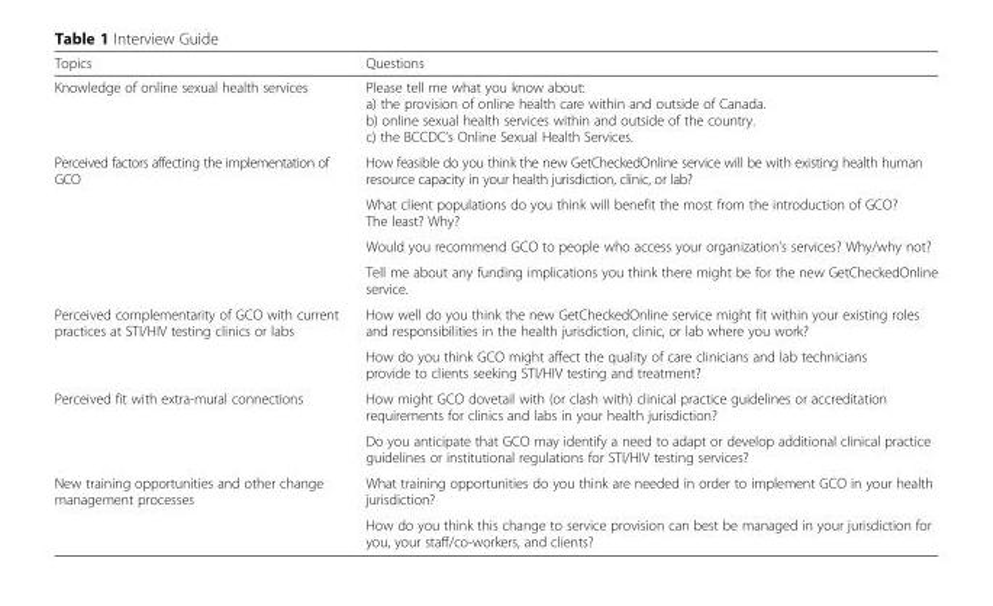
<table><thead><tr><td>Topics</td><td>Questions</td></tr></thead><tbody><tr><td>Knowledge of online sexual health services</td><td>Please tell me what you know about: a) the provision of online health care within and outside of Canada. b) online sexual health services within and outside of the country. c) the BCCDC’s Online Sexual Health Services.</td></tr><tr><td rowspan="4">Perceived factors affecting the implementation of GCO</td><td>How feasible do you think the new GetCheckedOnline service will be with existing health human resource capacity in your health jurisdiction, clinic, or lab?</td></tr><tr><td>What client populations do you think will benefit the most from the introduction of GCO? The least? Why?</td></tr><tr><td>Would you recommend GCO to people who access your organization’s services? Why/why not?</td></tr><tr><td>Tell me about any funding implications you think there might be for the new GetCheckedOnline service.</td></tr><tr><td rowspan="2">Perceived complementarity of GCO with current practices at STI/HIV testing clinics or labs</td><td>How well do you think the new GetCheckedOnline service might fit within your existing roles and responsibilities in the health jurisdiction, clinic, or lab where you work?</td></tr><tr><td>How do you think GCO might affect the quality of care clinicians and lab technicians provide to clients seeking STI/HIV testing and treatment?</td></tr><tr><td rowspan="2">Perceived fit with extra-mural connections</td><td>How might GCO dovetail with (or clash with) clinical practice guidelines or accreditation requirements for clinics and labs in your health jurisdiction?</td></tr><tr><td>Do you anticipate that GCO may identify a need to adapt or develop additional clinical practice guidelines or institutional regulations for STI/HIV testing services?</td></tr><tr><td rowspan="2">New training opportunities and other change management processes</td><td>What training opportunities do you think are needed in order to implement GCO in your health jurisdiction?</td></tr><tr><td>How do you think this change to service provision can best be managed in your jurisdiction for you, your staff/co-workers, and clients?</td></tr></tbody></table>